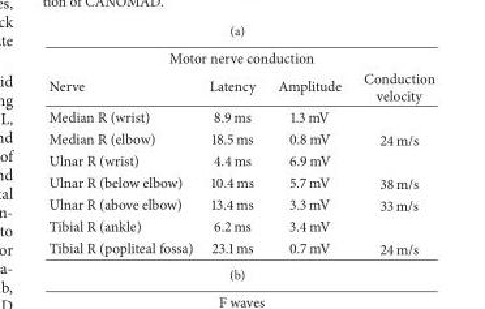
<table><thead><tr><td colspan="4">Motor nerve conduction</td></tr><tr><td>Nerve</td><td>Latency</td><td>Amplitude</td><td>Conduction velocity</td></tr></thead><tbody><tr><td>Median R (wrist)</td><td>8.9 ms</td><td>1.3 mV</td><td></td></tr><tr><td>Median R (elbow)</td><td>18.5 ms</td><td>0.8 mV</td><td>24 m/s</td></tr><tr><td>Ulnar R (wrist)</td><td>4.4 ms</td><td>6.9 mV</td><td></td></tr><tr><td>Ulnar R (below elbow)</td><td>10.4 ms</td><td>5.7 mV</td><td>38 m/s</td></tr><tr><td>Ulnar R (above elbow)</td><td>13.4 ms</td><td>3.3 mV</td><td>33 m/s</td></tr><tr><td>Tibial R (ankle)</td><td>6.2 ms</td><td>3.4 mV</td><td></td></tr><tr><td>Tibial R (popliteal fossa)</td><td>23.1 ms</td><td>0.7 mV</td><td>24 m/s</td></tr></tbody></table>